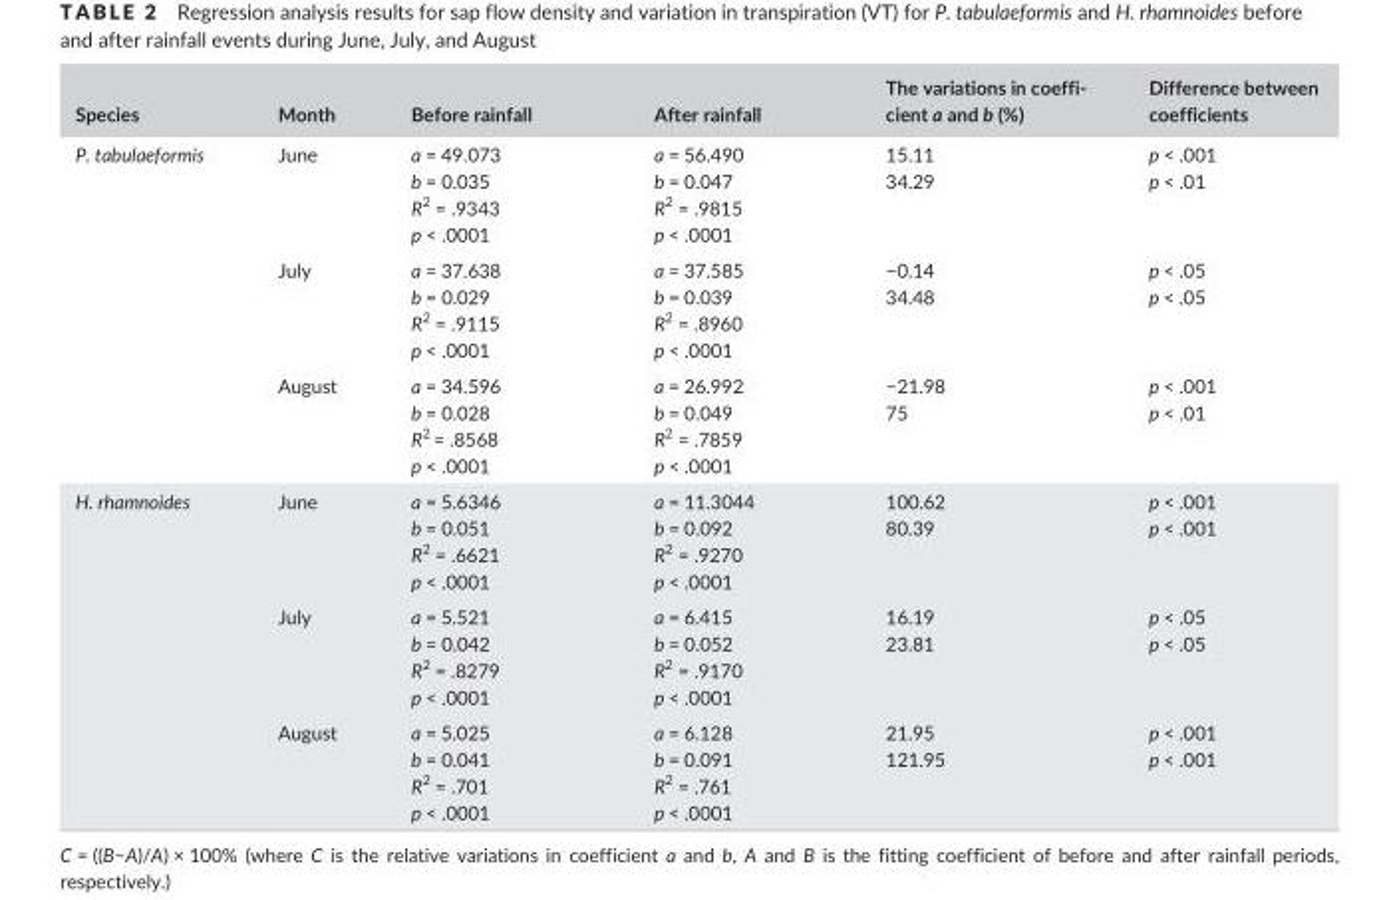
<table><thead><tr><td>Species</td><td>Month</td><td>Before rainfall</td><td>After rainfall</td><td>The variations in coeffi- cient a and b (%)</td><td>Difference between coefficients</td></tr></thead><tbody><tr><td rowspan="3">P. tabulaeformis</td><td>June</td><td>a = 49.073 b = 0.035 R<sup>2</sup> = .9343 p &lt; .0001</td><td>a = 56.490 b = 0.047 R<sup>2</sup> = .9815 p &lt; .0001</td><td>15.11 34.29</td><td>p &lt; .001 p &lt; .01</td></tr><tr><td>July</td><td>a = 37.638 b = 0.029 R<sup>2</sup> = .9115 p &lt; .0001</td><td>a = 37.585 b = 0.039 R<sup>2</sup> = .8960 p &lt; .0001</td><td>−0.14 34.48</td><td>p &lt; .05 p &lt; .05</td></tr><tr><td>August</td><td>a = 34.596 b = 0.028 R<sup>2</sup> = .8568 p &lt; .0001</td><td>a = 26.992 b = 0.049 R<sup>2</sup> = .7859 p &lt; .0001</td><td>−21.98 75</td><td>p &lt; .001 p &lt; .01</td></tr><tr><td rowspan="3">H. rhamnoides</td><td>June</td><td>a = 5.6346 b = 0.051 R<sup>2</sup> = .6621 p &lt; .0001</td><td>a = 11.3044 b = 0.092 R<sup>2</sup> = .9270 p &lt; .0001</td><td>100.62 80.39</td><td>p &lt; .001 p &lt; .001</td></tr><tr><td>July</td><td>a = 5.521 b = 0.042 R<sup>2</sup> = .8279 p &lt; .0001</td><td>a = 6.415 b = 0.052 R<sup>2</sup> = .9170 p &lt; .0001</td><td>16.19 23.81</td><td>p &lt; .05 p &lt; .05</td></tr><tr><td>August</td><td>a = 5.025 b = 0.041 R<sup>2</sup> = .701 p &lt; .0001</td><td>a = 6.128 b = 0.091 R<sup>2</sup> = .761 p &lt; .0001</td><td>21.95 121.95</td><td>p &lt; .001 p &lt; .001</td></tr></tbody></table>